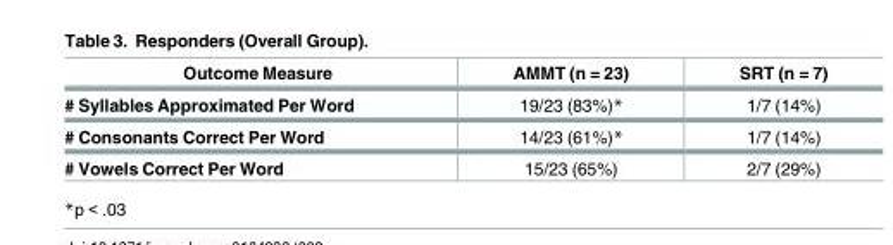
<table><thead><tr><td>Outcome Measure</td><td>AMMT (n = 23)</td><td>SRT (n = 7)</td></tr></thead><tbody><tr><td># Syllables Approximated Per Word</td><td>19/23 (83%)*</td><td>1/7 (14%)</td></tr><tr><td># Consonants Correct Per Word</td><td>14/23 (61%)*</td><td>1/7 (14%)</td></tr><tr><td># Vowels Correct Per Word</td><td>15/23 (65%)</td><td>2/7 (29%)</td></tr></tbody></table>